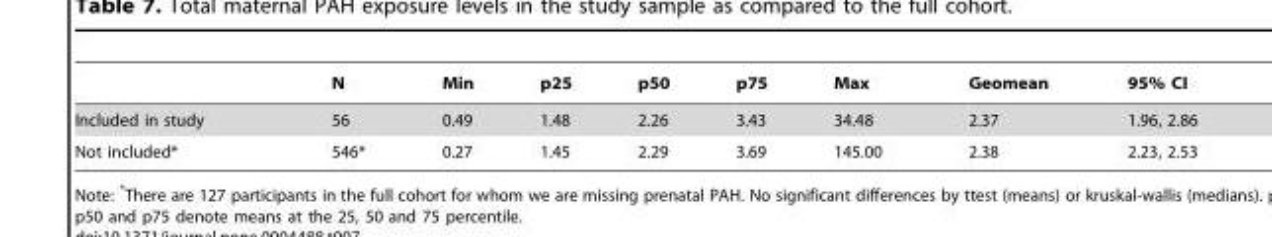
<table><thead><tr><td></td><td>N</td><td>Min</td><td>p25</td><td>p50</td><td>p75</td><td>Max</td><td>Geomean</td><td>95% CI</td></tr></thead><tbody><tr><td>Included in study</td><td>56</td><td>0.49</td><td>1.48</td><td>2.26</td><td>3.43</td><td>34.48</td><td>2.37</td><td>1.96, 2.86</td></tr><tr><td>Not included*</td><td>546*</td><td>0.27</td><td>1.45</td><td>2.29</td><td>3.69</td><td>145.00</td><td>2.38</td><td>2.23, 2.53</td></tr></tbody></table>